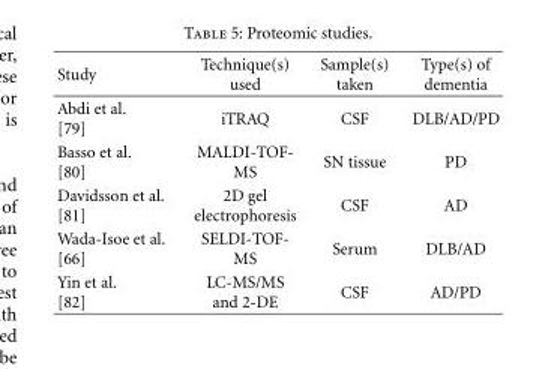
<table><thead><tr><td>Study</td><td>Technique(s) used</td><td>Sample(s) taken</td><td>Type(s) of dementia</td></tr></thead><tbody><tr><td>Abdi et al. [79]</td><td>iTRAQ</td><td>CSF</td><td>DLB/AD/PD</td></tr><tr><td>Basso et al. [80]</td><td>MALDI-TOF- MS</td><td>SN tissue</td><td>PD</td></tr><tr><td>Davidsson et al. [81]</td><td>2D gel electrophoresis</td><td>CSF</td><td>AD</td></tr><tr><td>Wada-Isoe et al. [66]</td><td>SELDI-TOF- MS</td><td>Serum</td><td>DLB/AD</td></tr><tr><td>Yin et al. [82]</td><td>LC-MS/MS and 2-DE</td><td>CSF</td><td>AD/PD</td></tr></tbody></table>